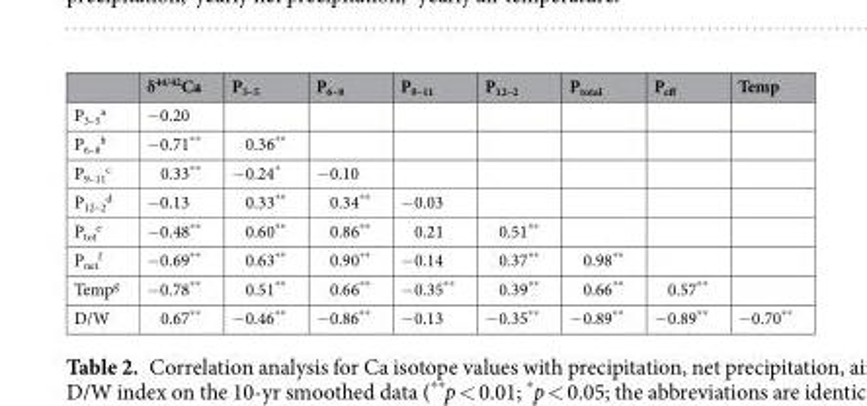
<table><thead><tr><td></td><td>δ<sup>44/42</sup>Ca</td><td>P<sub>3–5</sub></td><td>P<sub>6–8</sub></td><td>P<sub>9–11</sub></td><td>P<sub>12–2</sub></td><td>P<sub>total</sub></td><td>P<sub>eff</sub></td><td>Temp</td></tr></thead><tbody><tr><td>P<sub>3–5</sub> <sup>a</sup></td><td>−0.20</td><td></td><td></td><td></td><td></td><td></td><td></td><td></td></tr><tr><td>P<sub>6–8</sub> <sup>b</sup></td><td>−0.71**</td><td>0.36**</td><td></td><td></td><td></td><td></td><td></td><td></td></tr><tr><td>P<sub>9–11</sub> <sup>c</sup></td><td>0.33**</td><td>−0.24*</td><td>−0.10</td><td></td><td></td><td></td><td></td><td></td></tr><tr><td>P<sub>12–2</sub> <sup>d</sup></td><td>−0.13</td><td>0.33**</td><td>0.34**</td><td>−0.03</td><td></td><td></td><td></td><td></td></tr><tr><td>P<sub>tot</sub> <sup>e</sup></td><td>−0.48**</td><td>0.60**</td><td>0.86**</td><td>0.21</td><td>0.51**</td><td></td><td></td><td></td></tr><tr><td>P<sub>net</sub> <sup>f</sup></td><td>−0.69**</td><td>0.63**</td><td>0.90**</td><td>−0.14</td><td>0.37**</td><td>0.98**</td><td></td><td></td></tr><tr><td>Temp<sup>g</sup></td><td>−0.78**</td><td>0.51**</td><td>0.66**</td><td>−0.35**</td><td>0.39**</td><td>0.66**</td><td>0.57**</td><td></td></tr><tr><td>D/W</td><td>0.67**</td><td>−0.46**</td><td>−0.86**</td><td>−0.13</td><td>−0.35**</td><td>−0.89**</td><td>−0.89**</td><td>−0.70**</td></tr></tbody></table>